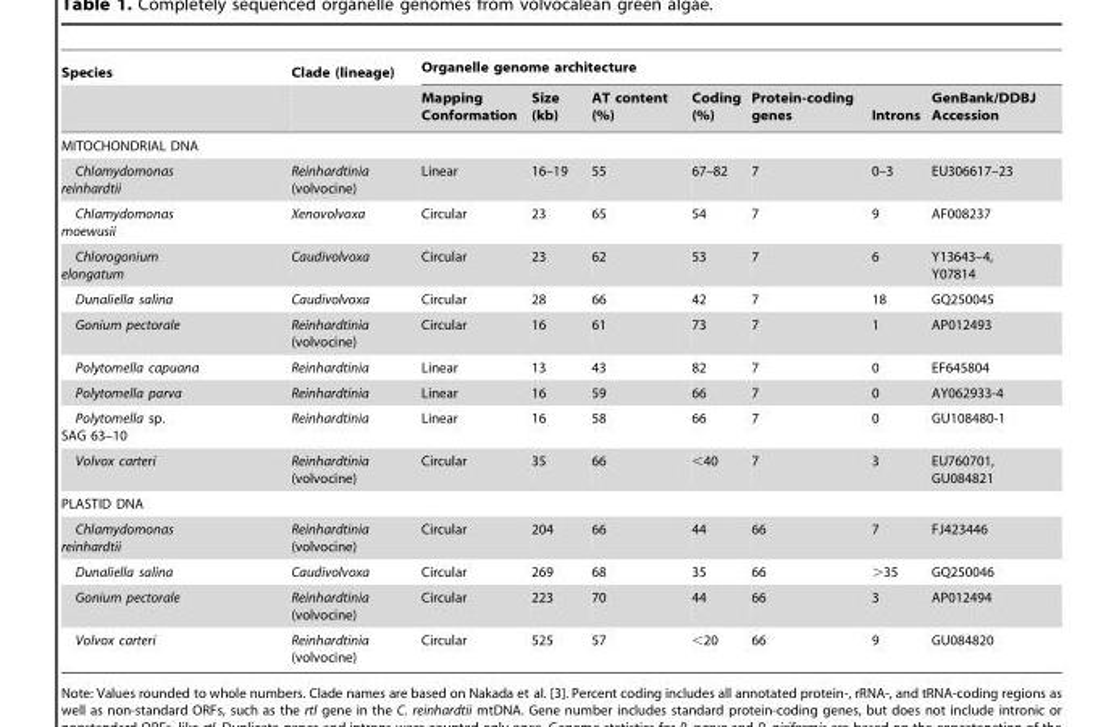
<table><thead><tr><td rowspan="2">Species</td><td rowspan="2">Clade (lineage)</td><td colspan="7">Organelle genome architecture</td></tr><tr><td>Mapping Conformation</td><td>Size (kb)</td><td>AT content (%)</td><td>Coding (%)</td><td>Protein-coding genes</td><td>Introns</td><td>GenBank/DDBJ Accession</td></tr></thead><tbody><tr><td colspan="9">MITOCHONDRIAL DNA</td></tr><tr><td>Chlamydomonas reinhardtii</td><td>Reinhardtinia (volvocine)</td><td>Linear</td><td>16–19</td><td>55</td><td>67–82</td><td>7</td><td>0–3</td><td>EU306617–23</td></tr><tr><td>Chlamydomonas moewusii</td><td>Xenovolvoxa</td><td>Circular</td><td>23</td><td>65</td><td>54</td><td>7</td><td>9</td><td>AF008237</td></tr><tr><td>Chlorogonium elongatum</td><td>Caudivolvoxa</td><td>Circular</td><td>23</td><td>62</td><td>53</td><td>7</td><td>6</td><td>Y13643–4, Y07814</td></tr><tr><td>Dunaliella salina</td><td>Caudivolvoxa</td><td>Circular</td><td>28</td><td>66</td><td>42</td><td>7</td><td>18</td><td>GQ250045</td></tr><tr><td>Gonium pectorale</td><td>Reinhardtinia (volvocine)</td><td>Circular</td><td>16</td><td>61</td><td>73</td><td>7</td><td>1</td><td>AP012493</td></tr><tr><td>Polytomella capuana</td><td>Reinhardtinia</td><td>Linear</td><td>13</td><td>43</td><td>82</td><td>7</td><td>0</td><td>EF645804</td></tr><tr><td>Polytomella parva</td><td>Reinhardtinia</td><td>Linear</td><td>16</td><td>59</td><td>66</td><td>7</td><td>0</td><td>AY062933-4</td></tr><tr><td>Polytomella sp. SAG 63–10</td><td>Reinhardtinia</td><td>Linear</td><td>16</td><td>58</td><td>66</td><td>7</td><td>0</td><td>GU108480-1</td></tr><tr><td>Volvox carteri</td><td>Reinhardtinia (volvocine)</td><td>Circular</td><td>35</td><td>66</td><td>&lt;40</td><td>7</td><td>3</td><td>EU760701, GU084821</td></tr><tr><td colspan="9">PLASTID DNA</td></tr><tr><td>Chlamydomonas reinhardtii</td><td>Reinhardtinia (volvocine)</td><td>Circular</td><td>204</td><td>66</td><td>44</td><td>66</td><td>7</td><td>FJ423446</td></tr><tr><td>Dunaliella salina</td><td>Caudivolvoxa</td><td>Circular</td><td>269</td><td>68</td><td>35</td><td>66</td><td>&gt;35</td><td>GQ250046</td></tr><tr><td>Gonium pectorale</td><td>Reinhardtinia (volvocine)</td><td>Circular</td><td>223</td><td>70</td><td>44</td><td>66</td><td>3</td><td>AP012494</td></tr><tr><td>Volvox carteri</td><td>Reinhardtinia (volvocine)</td><td>Circular</td><td>525</td><td>57</td><td>&lt;20</td><td>66</td><td>9</td><td>GU084820</td></tr></tbody></table>